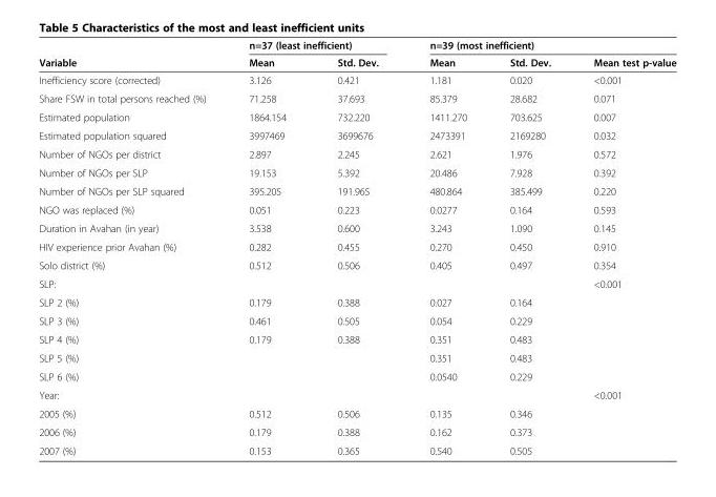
<table><thead><tr><td rowspan="2">Variable</td><td colspan="2">n=37 (least inefficient)</td><td colspan="3">n=39 (most inefficient)</td></tr><tr><td>Mean</td><td>Std. Dev.</td><td>Mean</td><td>Std. Dev.</td><td>Mean test p-value</td></tr></thead><tbody><tr><td>Inefficiency score (corrected)</td><td>3.126</td><td>0.421</td><td>1.181</td><td>0.020</td><td>&lt;0.001</td></tr><tr><td>Share FSW in total persons reached (%)</td><td>71.258</td><td>37.693</td><td>85.379</td><td>28.682</td><td>0.071</td></tr><tr><td>Estimated population</td><td>1864.154</td><td>732.220</td><td>1411.270</td><td>703.625</td><td>0.007</td></tr><tr><td>Estimated population squared</td><td>3997469</td><td>3699676</td><td>2473391</td><td>2169280</td><td>0.032</td></tr><tr><td>Number of NGOs per district</td><td>2.897</td><td>2.245</td><td>2.621</td><td>1.976</td><td>0.572</td></tr><tr><td>Number of NGOs per SLP</td><td>19.153</td><td>5.392</td><td>20.486</td><td>7.928</td><td>0.392</td></tr><tr><td>Number of NGOs per SLP squared</td><td>395.205</td><td>191.965</td><td>480.864</td><td>385.499</td><td>0.220</td></tr><tr><td>NGO was replaced (%)</td><td>0.051</td><td>0.223</td><td>0.0277</td><td>0.164</td><td>0.593</td></tr><tr><td>Duration in Avahan (in year)</td><td>3.538</td><td>0.600</td><td>3.243</td><td>1.090</td><td>0.145</td></tr><tr><td>HIV experience prior Avahan (%)</td><td>0.282</td><td>0.455</td><td>0.270</td><td>0.450</td><td>0.910</td></tr><tr><td>Solo district (%)</td><td>0.512</td><td>0.506</td><td>0.405</td><td>0.497</td><td>0.354</td></tr><tr><td>SLP:</td><td></td><td></td><td></td><td></td><td>&lt;0.001</td></tr><tr><td>SLP 2 (%)</td><td>0.179</td><td>0.388</td><td>0.027</td><td>0.164</td><td></td></tr><tr><td>SLP 3 (%)</td><td>0.461</td><td>0.505</td><td>0.054</td><td>0.229</td><td></td></tr><tr><td>SLP 4 (%)</td><td>0.179</td><td>0.388</td><td>0.351</td><td>0.483</td><td></td></tr><tr><td>SLP 5 (%)</td><td></td><td></td><td>0.351</td><td>0.483</td><td></td></tr><tr><td>SLP 6 (%)</td><td></td><td></td><td>0.0540</td><td>0.229</td><td></td></tr><tr><td>Year:</td><td></td><td></td><td></td><td></td><td>&lt;0.001</td></tr><tr><td>2005 (%)</td><td>0.512</td><td>0.506</td><td>0.135</td><td>0.346</td><td></td></tr><tr><td>2006 (%)</td><td>0.179</td><td>0.388</td><td>0.162</td><td>0.373</td><td></td></tr><tr><td>2007 (%)</td><td>0.153</td><td>0.365</td><td>0.540</td><td>0.505</td><td></td></tr></tbody></table>